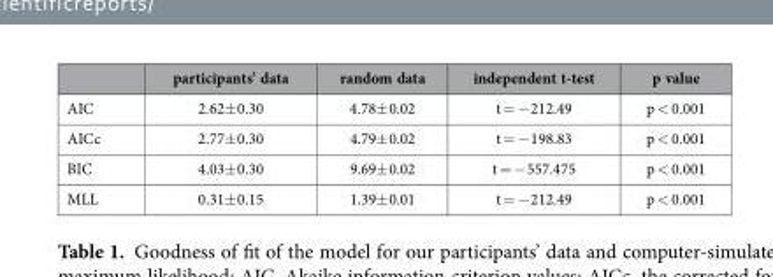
<table><thead><tr><td></td><td>participants’ data</td><td>random data</td><td>independent t-test</td><td>p value</td></tr></thead><tbody><tr><td>AIC</td><td>2.62± 0.30</td><td>4.78± 0.02</td><td>t = − 212.49</td><td>p &lt; 0.001</td></tr><tr><td>AICc</td><td>2.77± 0.30</td><td>4.79± 0.02</td><td>t = − 198.83</td><td>p &lt; 0.001</td></tr><tr><td>BIC</td><td>4.03± 0.30</td><td>9.69± 0.02</td><td>t = − 557.475</td><td>p &lt; 0.001</td></tr><tr><td>MLL</td><td>0.31± 0.15</td><td>1.39± 0.01</td><td>t = − 212.49</td><td>p &lt; 0.001</td></tr></tbody></table>